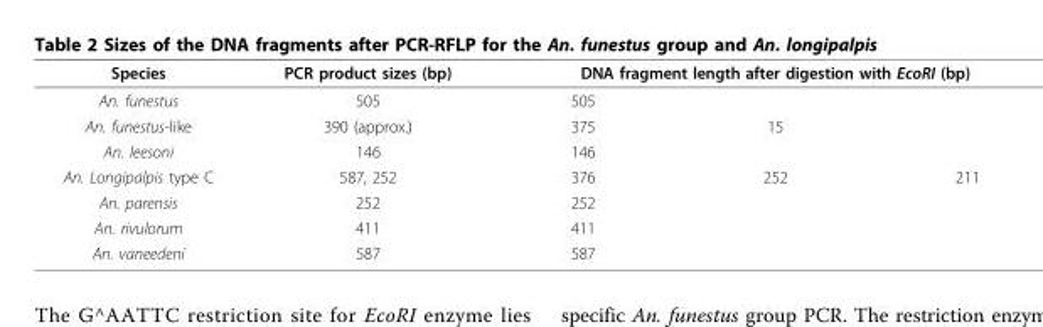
<table><thead><tr><td rowspan="2">Species An. funestus</td><td rowspan="2">PCR product sizes (bp) 505</td><td colspan="3">DNA fragment length after digestion with EcoRI (bp)</td></tr><tr><td>505</td><td></td><td></td></tr></thead><tbody><tr><td>An. funestus-like</td><td>390 (approx.)</td><td>375</td><td>15</td><td></td></tr><tr><td>An. leesoni</td><td>146</td><td>146</td><td></td><td></td></tr><tr><td>An. Longipalpis type C</td><td>587, 252</td><td>376</td><td>252</td><td>211</td></tr><tr><td>An. parensis</td><td>252</td><td>252</td><td></td><td></td></tr><tr><td>An. rivulorum</td><td>411</td><td>411</td><td></td><td></td></tr><tr><td>An. vaneedeni</td><td>587</td><td>587</td><td></td><td></td></tr></tbody></table>